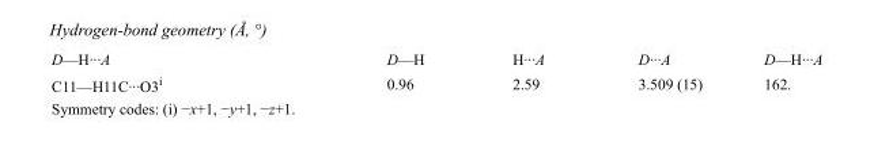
<table><tbody><tr><td>D—H···A</td><td>D—H</td><td>H···A</td><td>D···A</td><td>D—H···A</td></tr><tr><td>C11—H11C···O3<sup>i</sup></td><td>0.96</td><td>2.59</td><td>3.509 (15)</td><td>162.</td></tr></tbody></table>